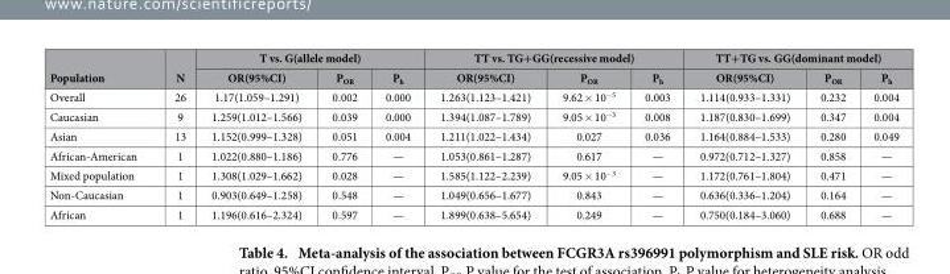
<table><thead><tr><td rowspan="2">Population</td><td rowspan="2">N</td><td colspan="3">T vs. G(allele model)</td><td colspan="3">TT vs. TG+GG(recessive model)</td><td colspan="3">TT+TG vs. GG(dominant model)</td></tr><tr><td>OR(95%CI)</td><td>P<sub>OR</sub></td><td>P<sub>h</sub></td><td>OR(95%CI)</td><td>P<sub>OR</sub></td><td>P<sub>h</sub></td><td>OR(95%CI)</td><td>P<sub>OR</sub></td><td>P<sub>h</sub></td></tr></thead><tbody><tr><td>Overall</td><td>26</td><td>1.17(1.059–1.291)</td><td>0.002</td><td>0.000</td><td>1.263(1.123–1.421)</td><td>9.62 × 10<sup>−5</sup></td><td>0.003</td><td>1.114(0.933–1.331)</td><td>0.232</td><td>0.004</td></tr><tr><td>Caucasian</td><td>9</td><td>1.259(1.012–1.566)</td><td>0.039</td><td>0.000</td><td>1.394(1.087–1.789)</td><td>9.05 × 10<sup>−3</sup></td><td>0.008</td><td>1.187(0.830–1.699)</td><td>0.347</td><td>0.004</td></tr><tr><td>Asian</td><td>13</td><td>1.152(0.999–1.328)</td><td>0.051</td><td>0.004</td><td>1.211(1.022–1.434)</td><td>0.027</td><td>0.036</td><td>1.164(0.884–1.533)</td><td>0.280</td><td>0.049</td></tr><tr><td>African-American</td><td>1</td><td>1.022(0.880–1.186)</td><td>0.776</td><td>—</td><td>1.053(0.861–1.287)</td><td>0.617</td><td>—</td><td>0.972(0.712–1.327)</td><td>0.858</td><td>—</td></tr><tr><td>Mixed population</td><td>1</td><td>1.308(1.029–1.662)</td><td>0.028</td><td>—</td><td>1.585(1.122–2.239)</td><td>9.05 × 10<sup>−3</sup></td><td>—</td><td>1.172(0.761–1.804)</td><td>0.471</td><td>—</td></tr><tr><td>Non-Caucasian</td><td>1</td><td>0.903(0.649–1.258)</td><td>0.548</td><td>—</td><td>1.049(0.656–1.677)</td><td>0.843</td><td>—</td><td>0.636(0.336–1.204)</td><td>0.164</td><td>—</td></tr><tr><td>African</td><td>1</td><td>1.196(0.616–2.324)</td><td>0.597</td><td>—</td><td>1.899(0.638–5.654)</td><td>0.249</td><td>—</td><td>0.750(0.184–3.060)</td><td>0.688</td><td>—</td></tr></tbody></table>